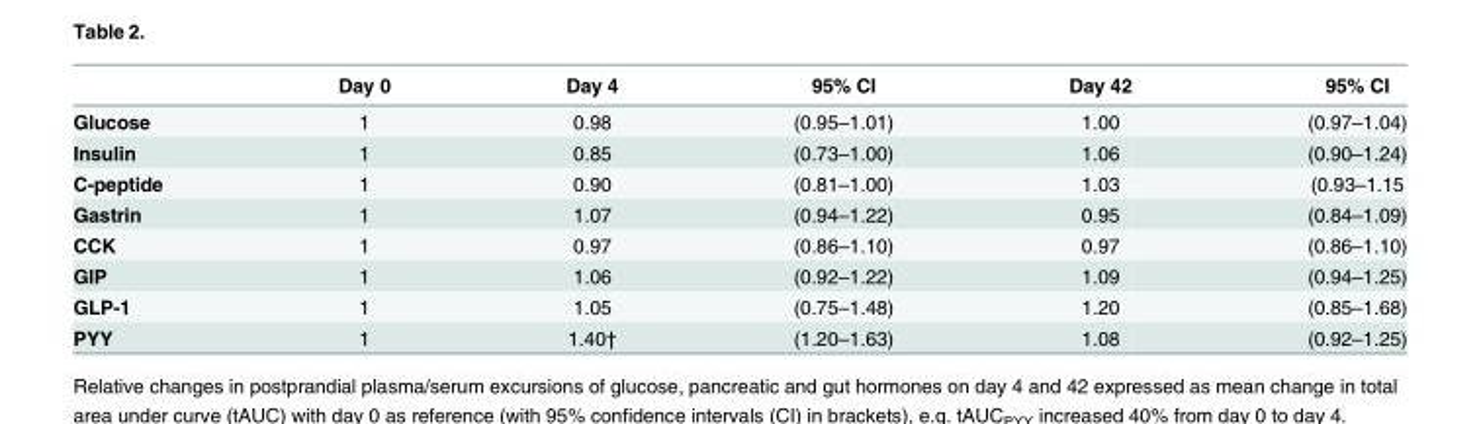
<table><thead><tr><td></td><td>Day 0</td><td>Day 4</td><td>95% CI</td><td>Day 42</td><td>95% CI</td></tr></thead><tbody><tr><td>Glucose</td><td>1</td><td>0.98</td><td>(0.95–1.01)</td><td>1.00</td><td>(0.97–1.04)</td></tr><tr><td>Insulin</td><td>1</td><td>0.85</td><td>(0.73–1.00)</td><td>1.06</td><td>(0.90–1.24)</td></tr><tr><td>C-peptide</td><td>1</td><td>0.90</td><td>(0.81–1.00)</td><td>1.03</td><td>(0.93–1.15</td></tr><tr><td>Gastrin</td><td>1</td><td>1.07</td><td>(0.94–1.22)</td><td>0.95</td><td>(0.84–1.09)</td></tr><tr><td>CCK</td><td>1</td><td>0.97</td><td>(0.86–1.10)</td><td>0.97</td><td>(0.86–1.10)</td></tr><tr><td>GIP</td><td>1</td><td>1.06</td><td>(0.92–1.22)</td><td>1.09</td><td>(0.94–1.25)</td></tr><tr><td>GLP-1</td><td>1</td><td>1.05</td><td>(0.75–1.48)</td><td>1.20</td><td>(0.85–1.68)</td></tr><tr><td>PYY</td><td>1</td><td>1.40†</td><td>(1.20–1.63)</td><td>1.08</td><td>(0.92–1.25)</td></tr></tbody></table>